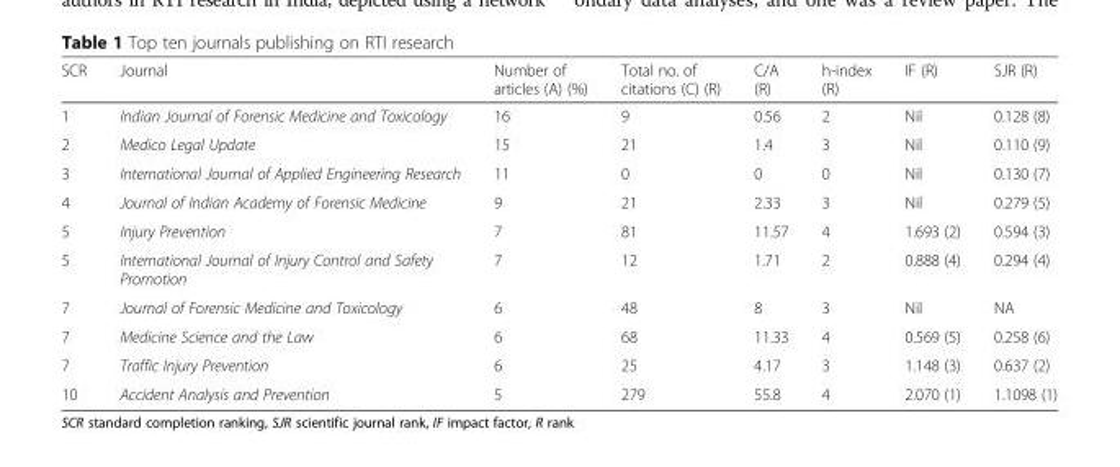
<table><thead><tr><td>SCR</td><td>Journal</td><td>Number of articles (A) (%)</td><td>Total no. of citations (C) (R)</td><td>C/A (R)</td><td>h-index (R)</td><td>IF (R)</td><td>SJR (R)</td></tr></thead><tbody><tr><td>1</td><td>Indian Journal of Forensic Medicine and Toxicology</td><td>16</td><td>9</td><td>0.56</td><td>2</td><td>Nil</td><td>0.128 (8)</td></tr><tr><td>2</td><td>Medico Legal Update</td><td>15</td><td>21</td><td>1.4</td><td>3</td><td>Nil</td><td>0.110 (9)</td></tr><tr><td>3</td><td>International Journal of Applied Engineering Research</td><td>11</td><td>0</td><td>0</td><td>0</td><td>Nil</td><td>0.130 (7)</td></tr><tr><td>4</td><td>Journal of Indian Academy of Forensic Medicine</td><td>9</td><td>21</td><td>2.33</td><td>3</td><td>Nil</td><td>0.279 (5)</td></tr><tr><td>5</td><td>Injury Prevention</td><td>7</td><td>81</td><td>11.57</td><td>4</td><td>1.693 (2)</td><td>0.594 (3)</td></tr><tr><td>5</td><td>International Journal of Injury Control and Safety Promotion</td><td>7</td><td>12</td><td>1.71</td><td>2</td><td>0.888 (4)</td><td>0.294 (4)</td></tr><tr><td>7</td><td>Journal of Forensic Medicine and Toxicology</td><td>6</td><td>48</td><td>8</td><td>3</td><td>Nil</td><td>NA</td></tr><tr><td>7</td><td>Medicine Science and the Law</td><td>6</td><td>68</td><td>11.33</td><td>4</td><td>0.569 (5)</td><td>0.258 (6)</td></tr><tr><td>7</td><td>Traffic Injury Prevention</td><td>6</td><td>25</td><td>4.17</td><td>3</td><td>1.148 (3)</td><td>0.637 (2)</td></tr><tr><td>10</td><td>Accident Analysis and Prevention</td><td>5</td><td>279</td><td>55.8</td><td>4</td><td>2.070 (1)</td><td>1.1098 (1)</td></tr></tbody></table>